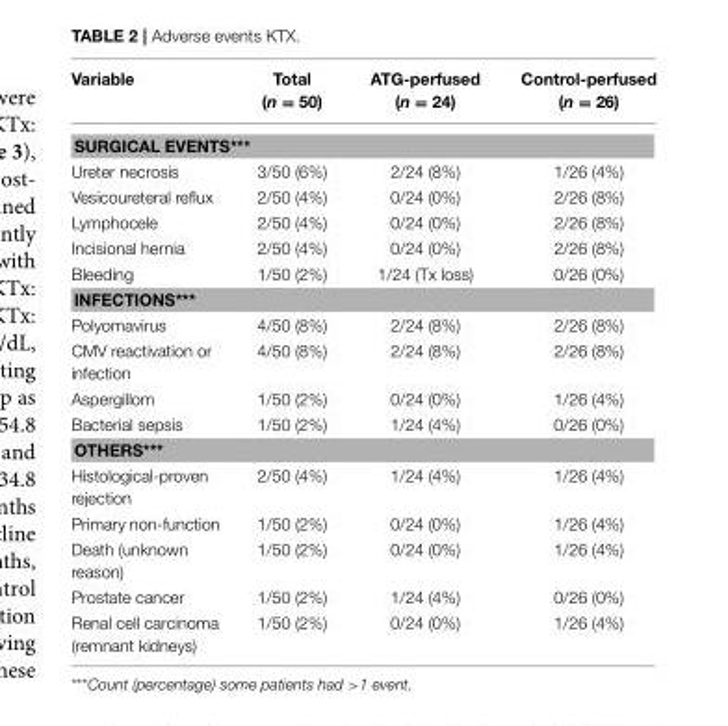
<table><thead><tr><td>Variable</td><td>Total (n = 50)</td><td>ATG-perfused (n = 24)</td><td>Control-perfused (n = 26)</td></tr></thead><tbody><tr><td colspan="4">SURGICAL EVENTS***</td></tr><tr><td>Ureter necrosis</td><td>3/50 (6%)</td><td>2/24 (8%)</td><td>1/26 (4%)</td></tr><tr><td>Vesicoureteral reflux</td><td>2/50 (4%)</td><td>0/24 (0%)</td><td>2/26 (8%)</td></tr><tr><td>Lymphocele</td><td>2/50 (4%)</td><td>0/24 (0%)</td><td>2/26 (8%)</td></tr><tr><td>Incisional hernia</td><td>2/50 (4%)</td><td>0/24 (0%)</td><td>2/26 (8%)</td></tr><tr><td>Bleeding</td><td>1/50 (2%)</td><td>1/24 (Tx loss)</td><td>0/26 (0%)</td></tr><tr><td colspan="4">INFECTIONS***</td></tr><tr><td>Polyomavirus</td><td>4/50 (8%)</td><td>2/24 (8%)</td><td>2/26 (8%)</td></tr><tr><td>CMV reactivation or infection</td><td>4/50 (8%)</td><td>2/24 (8%)</td><td>2/26 (8%)</td></tr><tr><td>Aspergillom</td><td>1/50 (2%)</td><td>0/24 (0%)</td><td>1/26 (4%)</td></tr><tr><td>Bacterial sepsis</td><td>1/50 (2%)</td><td>1/24 (4%)</td><td>0/26 (0%)</td></tr><tr><td colspan="4">OTHERS***</td></tr><tr><td>Histological-proven rejection</td><td>2/50 (4%)</td><td>1/24 (4%)</td><td>1/26 (4%)</td></tr><tr><td>Primary non-function</td><td>1/50 (2%)</td><td>0/24 (0%)</td><td>1/26 (4%)</td></tr><tr><td>Death (unknown reason)</td><td>1/50 (2%)</td><td>0/24 (0%)</td><td>1/26 (4%)</td></tr><tr><td>Prostate cancer</td><td>1/50 (2%)</td><td>1/24 (4%)</td><td>0/26 (0%)</td></tr><tr><td>Renal cell carcinoma (remnant kidneys)</td><td>1/50 (2%)</td><td>0/24 (0%)</td><td>1/26 (4%)</td></tr></tbody></table>